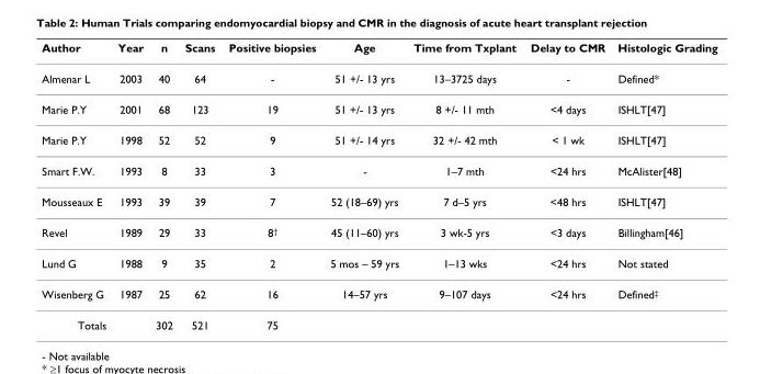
<table><thead><tr><td>Author</td><td>Year</td><td>n</td><td>Scans</td><td>Positive biopsies</td><td>Age</td><td>Time from Txplant</td><td>Delay to CMR</td><td>Histologic Grading</td></tr></thead><tbody><tr><td>Almenar L</td><td>2003</td><td>40</td><td>64</td><td>-</td><td>51 +/- 13 yrs</td><td>13–3725 days</td><td>-</td><td>Defined*</td></tr><tr><td>Marie P.Y</td><td>2001</td><td>68</td><td>123</td><td>19</td><td>51 +/- 13 yrs</td><td>8 +/- 11 mth</td><td>&lt;4 days</td><td>ISHLT[47]</td></tr><tr><td>Marie P.Y</td><td>1998</td><td>52</td><td>52</td><td>9</td><td>51 +/- 14 yrs</td><td>32 +/- 42 mth</td><td>&lt; 1 wk</td><td>ISHLT[47]</td></tr><tr><td>Smart F.W.</td><td>1993</td><td>8</td><td>33</td><td>3</td><td>-</td><td>1–7 mth</td><td>&lt;24 hrs</td><td>McAlister[48]</td></tr><tr><td>Mousseaux E</td><td>1993</td><td>39</td><td>39</td><td>7</td><td>52 (18–69) yrs</td><td>7 d–5 yrs</td><td>&lt;48 hrs</td><td>ISHLT[47]</td></tr><tr><td>Revel</td><td>1989</td><td>29</td><td>33</td><td>8<sup>†</sup></td><td>45 (11–60) yrs</td><td>3 wk-5 yrs</td><td>&lt;3 days</td><td>Billingham[46]</td></tr><tr><td>Lund G</td><td>1988</td><td>9</td><td>35</td><td>2</td><td>5 mos – 59 yrs</td><td>1–13 wks</td><td>&lt;24 hrs</td><td>Not stated</td></tr><tr><td>Wisenberg G</td><td>1987</td><td>25</td><td>62</td><td>16</td><td>14–57 yrs</td><td>9–107 days</td><td>&lt;24 hrs</td><td>Defined<sup>‡</sup></td></tr><tr><td>Totals</td><td></td><td>302</td><td>521</td><td>75</td><td></td><td></td><td></td><td></td></tr></tbody></table>